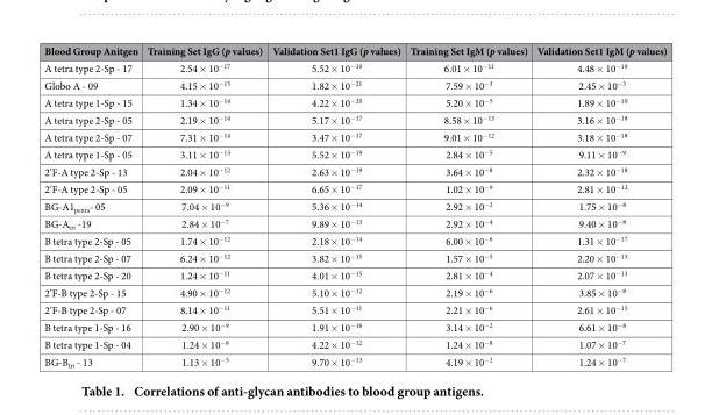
<table><thead><tr><td>Blood Group Anitgen</td><td>Training Set IgG (p values)</td><td>Validation Set1 IgG (p values)</td><td>Training Set IgM (p values)</td><td>Validation Set1 IgM (p values)</td></tr></thead><tbody><tr><td>A tetra type 2-Sp - 17</td><td>2.54 × 10<sup>−17</sup></td><td>5.52 × 10<sup>−19</sup></td><td>6.01 × 10<sup>−11</sup></td><td>4.48 × 10<sup>−19</sup></td></tr><tr><td>Globo A - 09</td><td>4.15 × 10<sup>−15</sup></td><td>1.82 × 10<sup>−21</sup></td><td>7.59 × 10<sup>−3</sup></td><td>2.45 × 10<sup>−3</sup></td></tr><tr><td>A tetra type 1-Sp - 15</td><td>1.34 × 10<sup>−14</sup></td><td>4.22 × 10<sup>−20</sup></td><td>5.20 × 10<sup>−5</sup></td><td>1.89 × 10<sup>−10</sup></td></tr><tr><td>A tetra type 2-Sp - 05</td><td>2.19 × 10<sup>−14</sup></td><td>5.17 × 10<sup>−17</sup></td><td>8.58 × 10<sup>−13</sup></td><td>3.16 × 10<sup>−18</sup></td></tr><tr><td>A tetra type 2-Sp - 07</td><td>7.31 × 10<sup>−14</sup></td><td>3.47 × 10<sup>−17</sup></td><td>9.01 × 10<sup>−12</sup></td><td>3.18 × 10<sup>−18</sup></td></tr><tr><td>A tetra type 1-Sp - 05</td><td>3.11 × 10<sup>−13</sup></td><td>5.52 × 10<sup>−19</sup></td><td>2.84 × 10<sup>−5</sup></td><td>9.11 × 10<sup>−9</sup></td></tr><tr><td>2’F-A type 2-Sp - 13</td><td>2.04 × 10<sup>−12</sup></td><td>2.63 × 10<sup>−19</sup></td><td>3.64 × 10<sup>−8</sup></td><td>2.32 × 10<sup>−18</sup></td></tr><tr><td>2’F-A type 2-Sp - 05</td><td>2.09 × 10<sup>−11</sup></td><td>6.65 × 10<sup>−17</sup></td><td>1.02 × 10<sup>−9</sup></td><td>2.81 × 10<sup>−12</sup></td></tr><tr><td>BG-A1<sub>penta</sub>- 05</td><td>7.04 × 10<sup>−9</sup></td><td>5.36 × 10<sup>−14</sup></td><td>2.92 × 10<sup>−2</sup></td><td>1.75 × 10<sup>−8</sup></td></tr><tr><td>BG-A<sub>tri</sub> -19</td><td>2.84 × 10<sup>−7</sup></td><td>9.89 × 10<sup>−13</sup></td><td>2.92 × 10<sup>−4</sup></td><td>9.40 × 10<sup>−8</sup></td></tr><tr><td>B tetra type 2-Sp - 05</td><td>1.74 × 10<sup>−12</sup></td><td>2.18 × 10<sup>−14</sup></td><td>6.00 × 10<sup>−6</sup></td><td>1.31 × 10<sup>−17</sup></td></tr><tr><td>B tetra type 2-Sp - 07</td><td>6.24 × 10<sup>−12</sup></td><td>3.82 × 10<sup>−15</sup></td><td>1.57 × 10<sup>−5</sup></td><td>2.20 × 10<sup>−15</sup></td></tr><tr><td>B tetra type 2-Sp - 20</td><td>1.24 × 10<sup>−11</sup></td><td>4.01 × 10<sup>−15</sup></td><td>2.81 × 10<sup>−4</sup></td><td>2.07 × 10<sup>−13</sup></td></tr><tr><td>2’F-B type 2-Sp - 15</td><td>4.90 × 10<sup>−12</sup></td><td>5.10 × 10<sup>−12</sup></td><td>2.19 × 10<sup>−6</sup></td><td>3.85 × 10<sup>−8</sup></td></tr><tr><td>2’F-B type 2-Sp - 07</td><td>8.14 × 10<sup>−11</sup></td><td>5.51 × 10<sup>−11</sup></td><td>2.21 × 10<sup>−6</sup></td><td>2.61 × 10<sup>−15</sup></td></tr><tr><td>B tetra type 1-Sp - 16</td><td>2.90 × 10<sup>−9</sup></td><td>1.91 × 10<sup>−16</sup></td><td>3.14 × 10<sup>−2</sup></td><td>6.61 × 10<sup>−8</sup></td></tr><tr><td>B tetra type 1-Sp - 04</td><td>1.24 × 10<sup>−8</sup></td><td>4.22 × 10<sup>−12</sup></td><td>1.24 × 10<sup>−8</sup></td><td>1.07 × 10<sup>−7</sup></td></tr><tr><td>BG-B<sub>tri</sub> - 13</td><td>1.13 × 10<sup>−5</sup></td><td>9.70 × 10<sup>−13</sup></td><td>4.19 × 10<sup>−2</sup></td><td>1.24 × 10<sup>−7</sup></td></tr></tbody></table>